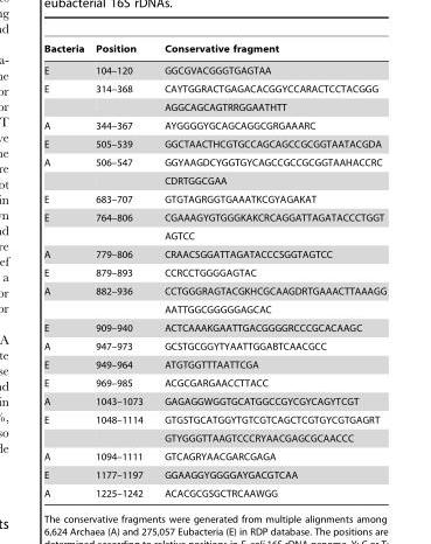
<table><thead><tr><td>Bacteria</td><td>Position</td><td>Conservative fragment</td></tr></thead><tbody><tr><td>E</td><td>104–120</td><td>GGCGVACGGGTGAGTAA</td></tr><tr><td rowspan="2">E</td><td>314–368</td><td>CAYTGGRACTGAGACACGGYCCARACTCCTACGGG</td></tr><tr><td></td><td>AGGCAGCAGTRRGGAATHTT</td></tr><tr><td>A</td><td>344–367</td><td>AYGGGGYGCAGCAGGCGRGAAARC</td></tr><tr><td>E</td><td>505–539</td><td>GGCTAACTHCGTGCCAGCAGCCGCGGTAATACGDA</td></tr><tr><td rowspan="2">A</td><td>506–547</td><td>GGYAAGDCYGGTGYCAGCCGCCGCGGTAAHACCRC</td></tr><tr><td></td><td>CDRTGGCGAA</td></tr><tr><td>E</td><td>683–707</td><td>GTGTAGRGGTGAAATKCGYAGAKAT</td></tr><tr><td rowspan="2">E</td><td>764–806</td><td>CGAAAGYGTGGGKAKCRCAGGATTAGATACCCTGGT</td></tr><tr><td></td><td>AGTCC</td></tr><tr><td>A</td><td>779–806</td><td>CRAACSGGATTAGATACCCSGGTAGTCC</td></tr><tr><td>E</td><td>879–893</td><td>CCRCCTGGGGAGTAC</td></tr><tr><td rowspan="2">A</td><td>882–936</td><td>CCTGGGRAGTACGKHCGCAAGDRTGAAACTTAAAGG</td></tr><tr><td></td><td>AATTGGCGGGGGAGCAC</td></tr><tr><td>E</td><td>909–940</td><td>ACTCAAAKGAATTGACGGGGRCCCGCACAAGC</td></tr><tr><td>A</td><td>947–973</td><td>GCSTGCGGYTYAATTGGABTCAACGCC</td></tr><tr><td>E</td><td>949–964</td><td>ATGTGGTTTAATTCGA</td></tr><tr><td>E</td><td>969–985</td><td>ACGCGARGAACCTTACC</td></tr><tr><td>A</td><td>1043–1073</td><td>GAGAGGWGGTGCATGGCCGYCGYCAGYTCGT</td></tr><tr><td rowspan="2">E</td><td>1048–1114</td><td>GTGSTGCATGGYTGTCGTCAGCTCGTGYCGTGAGRT</td></tr><tr><td></td><td>GTYGGGTTAAGTCCCRYAACGAGCGCAACCC</td></tr><tr><td>A</td><td>1094–1111</td><td>GTCAGRYAACGARCGAGA</td></tr><tr><td>E</td><td>1177–1197</td><td>GGAAGGYGGGGAYGACGTCAA</td></tr><tr><td>A</td><td>1225–1242</td><td>ACACGCGSGCTRCAAWGG</td></tr></tbody></table>